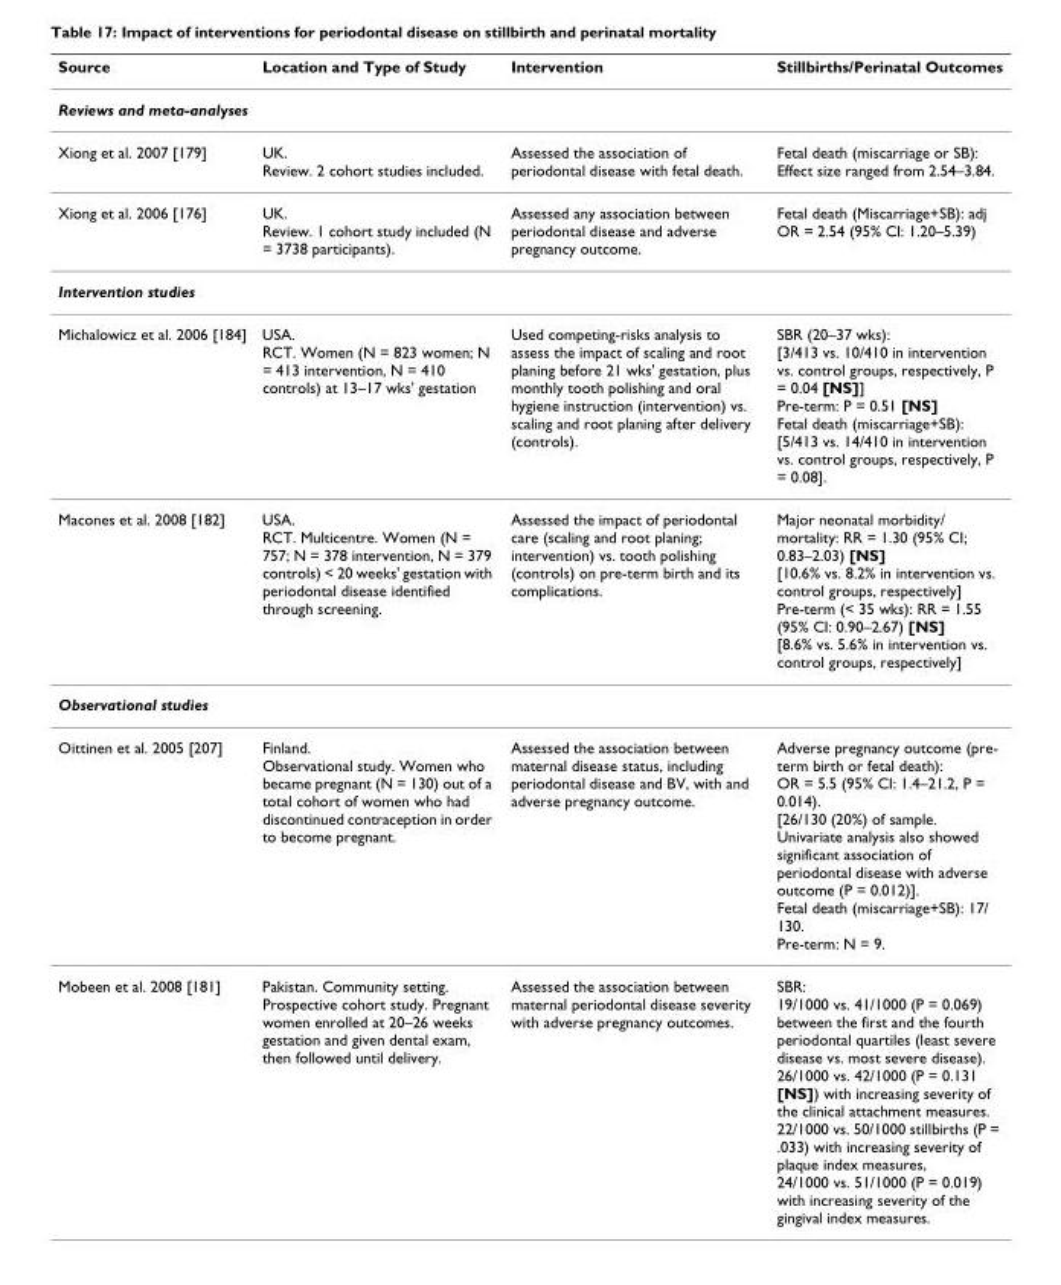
<table><thead><tr><td>Source</td><td>Location and Type of Study</td><td>Intervention</td><td>Stillbirths/Perinatal Outcomes</td></tr></thead><tbody><tr><td colspan="4">Reviews and meta-analyses</td></tr><tr><td>Xiong et al. 2007 [179]</td><td>UK. Review. 2 cohort studies included.</td><td>Assessed the association of periodontal disease with fetal death.</td><td>Fetal death (miscarriage or SB): Effect size ranged from 2.54–3.84.</td></tr><tr><td>Xiong et al. 2006 [176]</td><td>UK. Review. 1 cohort study included (N = 3738 participants).</td><td>Assessed any association between periodontal disease and adverse pregnancy outcome.</td><td>Fetal death (Miscarriage+SB): adj OR = 2.54 (95% CI: 1.20–5.39)</td></tr><tr><td colspan="4">Intervention studies</td></tr><tr><td>Michalowicz et al. 2006 [184]</td><td>USA. RCT. Women (N = 823 women; N = 413 intervention, N = 410 controls) at 13–17 wks&#x27; gestation</td><td>Used competing-risks analysis to assess the impact of scaling and root planing before 21 wks&#x27; gestation, plus monthly tooth polishing and oral hygiene instruction (intervention) vs. scaling and root planing after delivery (controls).</td><td>SBR (20–37 wks): [3/413 vs. 10/410 in intervention vs. control groups, respectively, P = 0.04 [NS]] Pre-term: P = 0.51 [NS] Fetal death (miscarriage+SB): [5/413 vs. 14/410 in intervention vs. control groups, respectively, P = 0.08].</td></tr><tr><td>Macones et al. 2008 [182]</td><td>USA. RCT. Multicentre. Women (N = 757; N = 378 intervention, N = 379 controls) &lt; 20 weeks&#x27; gestation with periodontal disease identified through screening.</td><td>Assessed the impact of periodontal care (scaling and root planing; intervention) vs. tooth polishing (controls) on pre-term birth and its complications.</td><td>Major neonatal morbidity/ mortality: RR = 1.30 (95% CI; 0.83–2.03) [NS] [10.6% vs. 8.2% in intervention vs. control groups, respectively] Pre-term (&lt; 35 wks): RR = 1.55 (95% CI: 0.90–2.67) [NS] [8.6% vs. 5.6% in intervention vs. control groups, respectively]</td></tr><tr><td colspan="4">Observational studies</td></tr><tr><td>Oittinen et al. 2005 [207]</td><td>Finland. Observational study. Women who became pregnant (N = 130) out of a total cohort of women who had discontinued contraception in order to become pregnant.</td><td>Assessed the association between maternal disease status, including periodontal disease and BV, with and adverse pregnancy outcome.</td><td>Adverse pregnancy outcome (pre- term birth or fetal death): OR = 5.5 (95% CI: 1.4–21.2, P = 0.014). [26/130 (20%) of sample. Univariate analysis also showed significant association of periodontal disease with adverse outcome (P = 0.012)]. Fetal death (miscarriage+SB): 17/ 130. Pre-term: N = 9.</td></tr><tr><td>Mobeen et al. 2008 [181]</td><td>Pakistan. Community setting. Prospective cohort study. Pregnant women enrolled at 20–26 weeks gestation and given dental exam, then followed until delivery.</td><td>Assessed the association between maternal periodontal disease severity with adverse pregnancy outcomes.</td><td>SBR: 19/1000 vs. 41/1000 (P = 0.069) between the first and the fourth periodontal quartiles (least severe disease vs. most severe disease). 26/1000 vs. 42/1000 (P = 0.131 [NS]) with increasing severity of the clinical attachment measures. 22/1000 vs. 50/1000 stillbirths (P = .033) with increasing severity of plaque index measures, 24/1000 vs. 51/1000 (P = 0.019) with increasing severity of the gingival index measures.</td></tr></tbody></table>